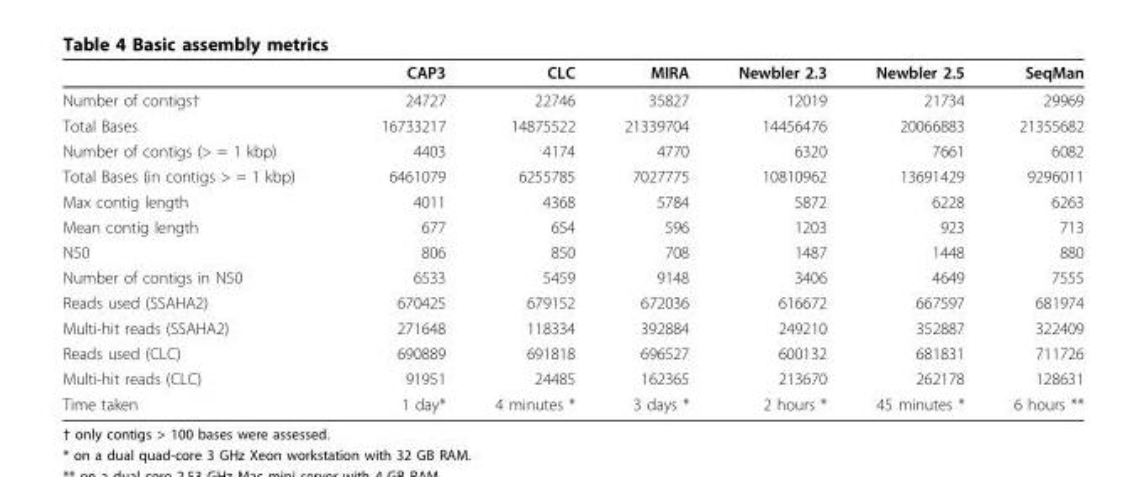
<table><thead><tr><td></td><td>CAP3</td><td>CLC</td><td>MIRA</td><td>Newbler 2.3</td><td>Newbler 2.5</td><td>SeqMan</td></tr></thead><tbody><tr><td>Number of contigs†</td><td>24727</td><td>22746</td><td>35827</td><td>12019</td><td>21734</td><td>29969</td></tr><tr><td>Total Bases</td><td>16733217</td><td>14875522</td><td>21339704</td><td>14456476</td><td>20066883</td><td>21355682</td></tr><tr><td>Number of contigs (&gt; = 1 kbp)</td><td>4403</td><td>4174</td><td>4770</td><td>6320</td><td>7661</td><td>6082</td></tr><tr><td>Total Bases (in contigs &gt; = 1 kbp)</td><td>6461079</td><td>6255785</td><td>7027775</td><td>10810962</td><td>13691429</td><td>9296011</td></tr><tr><td>Max contig length</td><td>4011</td><td>4368</td><td>5784</td><td>5872</td><td>6228</td><td>6263</td></tr><tr><td>Mean contig length</td><td>677</td><td>654</td><td>596</td><td>1203</td><td>923</td><td>713</td></tr><tr><td>N50</td><td>806</td><td>850</td><td>708</td><td>1487</td><td>1448</td><td>880</td></tr><tr><td>Number of contigs in N50</td><td>6533</td><td>5459</td><td>9148</td><td>3406</td><td>4649</td><td>7555</td></tr><tr><td>Reads used (SSAHA2)</td><td>670425</td><td>679152</td><td>672036</td><td>616672</td><td>667597</td><td>681974</td></tr><tr><td>Multi-hit reads (SSAHA2)</td><td>271648</td><td>118334</td><td>392884</td><td>249210</td><td>352887</td><td>322409</td></tr><tr><td>Reads used (CLC)</td><td>690889</td><td>691818</td><td>696527</td><td>600132</td><td>681831</td><td>711726</td></tr><tr><td>Multi-hit reads (CLC)</td><td>91951</td><td>24485</td><td>162365</td><td>213670</td><td>262178</td><td>128631</td></tr><tr><td>Time taken</td><td>1 day*</td><td>4 minutes *</td><td>3 days *</td><td>2 hours *</td><td>45 minutes *</td><td>6 hours **</td></tr></tbody></table>